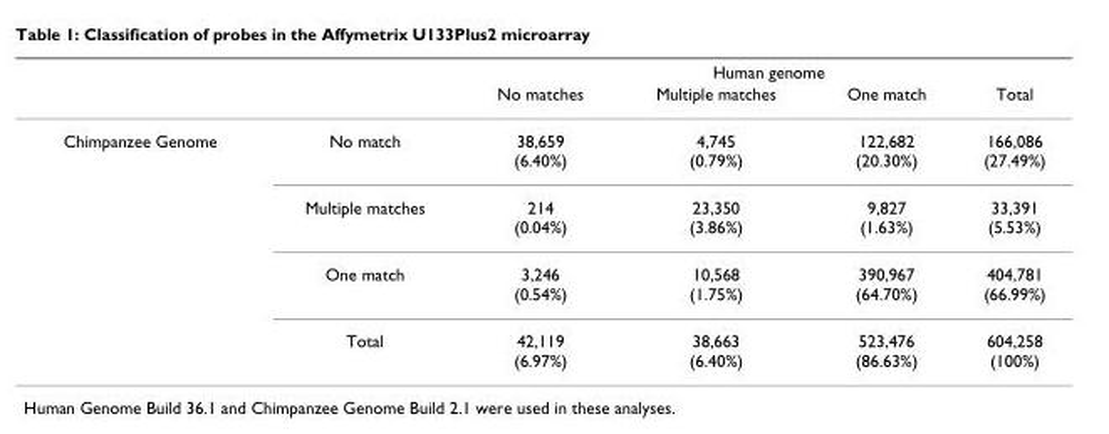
<table><thead><tr><td rowspan="2"></td><td rowspan="2"></td><td colspan="4">Human genome</td></tr><tr><td>No matches</td><td>Multiple matches</td><td>One match</td><td>Total</td></tr></thead><tbody><tr><td rowspan="4">Chimpanzee Genome</td><td>No match</td><td>38,659 (6.40%)</td><td>4,745 (0.79%)</td><td>122,682 (20.30%)</td><td>166,086 (27.49%)</td></tr><tr><td>Multiple matches</td><td>214 (0.04%)</td><td>23,350 (3.86%)</td><td>9,827 (1.63%)</td><td>33,391 (5.53%)</td></tr><tr><td>One match</td><td>3,246 (0.54%)</td><td>10,568 (1.75%)</td><td>390,967 (64.70%)</td><td>404,781 (66.99%)</td></tr><tr><td>Total</td><td>42,119 (6.97%)</td><td>38,663 (6.40%)</td><td>523,476 (86.63%)</td><td>604,258 (100%)</td></tr></tbody></table>